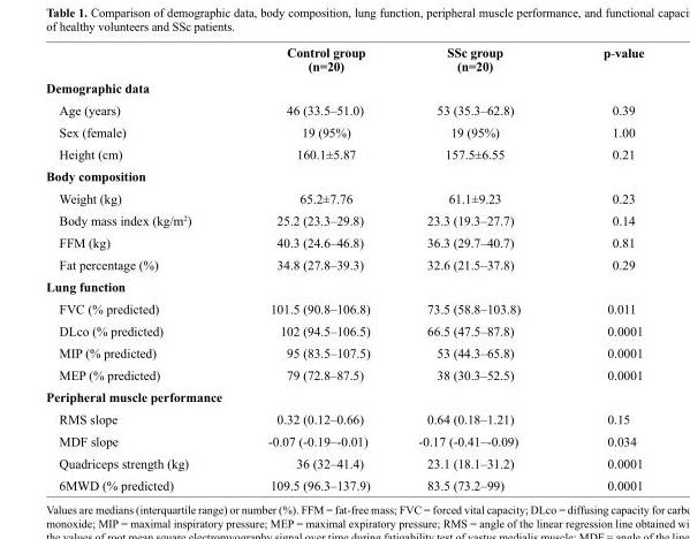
<table><thead><tr><td></td><td>Control group (n=20)</td><td>SSc group (n=20)</td><td>p-value</td></tr></thead><tbody><tr><td colspan="4">Demographic data</td></tr><tr><td>Age (years)</td><td>46 (33.5–51.0)</td><td>53 (35.3–62.8)</td><td>0.39</td></tr><tr><td>Sex (female)</td><td>19 (95%)</td><td>19 (95%)</td><td>1.00</td></tr><tr><td>Height (cm)</td><td>160.1±5.87</td><td>157.5±6.55</td><td>0.21</td></tr><tr><td colspan="4">Body composition</td></tr><tr><td>Weight (kg)</td><td>65.2±7.76</td><td>61.1±9.23</td><td>0.23</td></tr><tr><td>Body mass index (kg/m<sup>2</sup>)</td><td>25.2 (23.3–29.8)</td><td>23.3 (19.3–27.7)</td><td>0.14</td></tr><tr><td>FFM (kg)</td><td>40.3 (24.6–46.8)</td><td>36.3 (29.7–40.7)</td><td>0.81</td></tr><tr><td>Fat percentage (%)</td><td>34.8 (27.8–39.3)</td><td>32.6 (21.5–37.8)</td><td>0.29</td></tr><tr><td colspan="4">Lung function</td></tr><tr><td>FVC (% predicted)</td><td>101.5 (90.8–106.8)</td><td>73.5 (58.8–103.8)</td><td>0.011</td></tr><tr><td>DLco (% predicted)</td><td>102 (94.5–106.5)</td><td>66.5 (47.5–87.8)</td><td>0.0001</td></tr><tr><td>MIP (% predicted)</td><td>95 (83.5–107.5)</td><td>53 (44.3–65.8)</td><td>0.0001</td></tr><tr><td>MEP (% predicted)</td><td>79 (72.8–87.5)</td><td>38 (30.3–52.5)</td><td>0.0001</td></tr><tr><td colspan="4">Peripheral muscle performance</td></tr><tr><td>RMS slope</td><td>0.32 (0.12–0.66)</td><td>0.64 (0.18–1.21)</td><td>0.15</td></tr><tr><td>MDF slope</td><td>-0.07 (-0.19–-0.01)</td><td>-0.17 (-0.41–-0.09)</td><td>0.034</td></tr><tr><td>Quadriceps strength (kg)</td><td>36 (32–41.4)</td><td>23.1 (18.1–31.2)</td><td>0.0001</td></tr><tr><td>6MWD (% predicted)</td><td>109.5 (96.3–137.9)</td><td>83.5 (73.2–99)</td><td>0.0001</td></tr></tbody></table>